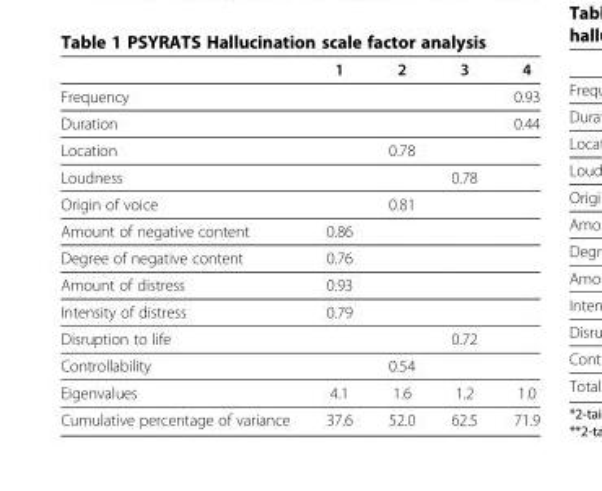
<table><thead><tr><td></td><td>1</td><td>2</td><td>3</td><td>4</td></tr></thead><tbody><tr><td>Frequency</td><td></td><td></td><td></td><td>0.93</td></tr><tr><td>Duration</td><td></td><td></td><td></td><td>0.44</td></tr><tr><td>Location</td><td></td><td>0.78</td><td></td><td></td></tr><tr><td>Loudness</td><td></td><td></td><td>0.78</td><td></td></tr><tr><td>Origin of voice</td><td></td><td>0.81</td><td></td><td></td></tr><tr><td>Amount of negative content</td><td>0.86</td><td></td><td></td><td></td></tr><tr><td>Degree of negative content</td><td>0.76</td><td></td><td></td><td></td></tr><tr><td>Amount of distress</td><td>0.93</td><td></td><td></td><td></td></tr><tr><td>Intensity of distress</td><td>0.79</td><td></td><td></td><td></td></tr><tr><td>Disruption to life</td><td></td><td></td><td>0.72</td><td></td></tr><tr><td>Controllability</td><td></td><td>0.54</td><td></td><td></td></tr><tr><td>Eigenvalues</td><td>4.1</td><td>1.6</td><td>1.2</td><td>1.0</td></tr><tr><td>Cumulative percentage of variance</td><td>37.6</td><td>52.0</td><td>62.5</td><td>71.9</td></tr></tbody></table>